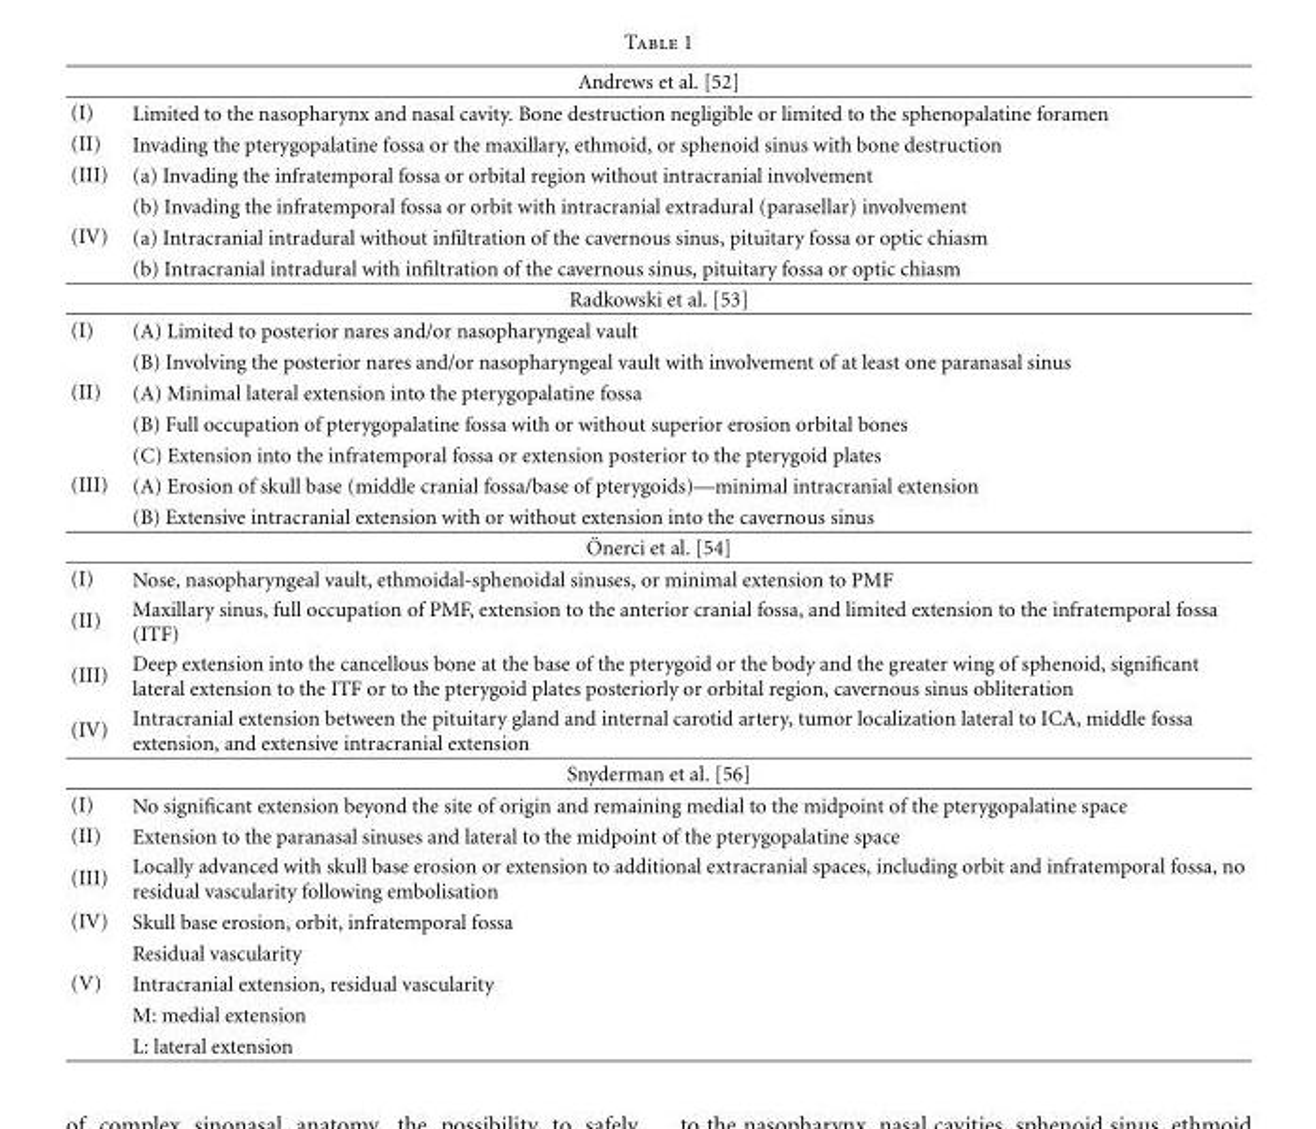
<table><tbody><tr><td colspan="2">Andrews et al. [52]</td></tr><tr><td>(I)</td><td>Limited to the nasopharynx and nasal cavity. Bone destruction negligible or limited to the sphenopalatine foramen</td></tr><tr><td>(II)</td><td>Invading the pterygopalatine fossa or the maxillary, ethmoid, or sphenoid sinus with bone destruction</td></tr><tr><td rowspan="2">(III)</td><td>(a) Invading the infratemporal fossa or orbital region without intracranial involvement</td></tr><tr><td>(b) Invading the infratemporal fossa or orbit with intracranial extradural (parasellar) involvement</td></tr><tr><td rowspan="2">(IV)</td><td>(a) Intracranial intradural without infiltration of the cavernous sinus, pituitary fossa or optic chiasm</td></tr><tr><td>(b) Intracranial intradural with infiltration of the cavernous sinus, pituitary fossa or optic chiasm</td></tr><tr><td colspan="2">Radkowski et al. [53]</td></tr><tr><td rowspan="2">(I)</td><td>(A) Limited to posterior nares and/or nasopharyngeal vault</td></tr><tr><td>(B) Involving the posterior nares and/or nasopharyngeal vault with involvement of at least one paranasal sinus</td></tr><tr><td rowspan="3">(II)</td><td>(A) Minimal lateral extension into the pterygopalatine fossa</td></tr><tr><td>(B) Full occupation of pterygopalatine fossa with or without superior erosion orbital bones</td></tr><tr><td>(C) Extension into the infratemporal fossa or extension posterior to the pterygoid plates</td></tr><tr><td rowspan="2">(III)</td><td>(A) Erosion of skull base (middle cranial fossa/base of pterygoids)—minimal intracranial extension</td></tr><tr><td>(B) Extensive intracranial extension with or without extension into the cavernous sinus</td></tr><tr><td colspan="2">¨Onerci et al. [54]</td></tr><tr><td>(I)</td><td>Nose, nasopharyngeal vault, ethmoidal-sphenoidal sinuses, or minimal extension to PMF</td></tr><tr><td>(II)</td><td>Maxillary sinus, full occupation of PMF, extension to the anterior cranial fossa, and limited extension to the infratemporal fossa (ITF)</td></tr><tr><td>(III)</td><td>Deep extension into the cancellous bone at the base of the pterygoid or the body and the greater wing of sphenoid, significant lateral extension to the ITF or to the pterygoid plates posteriorly or orbital region, cavernous sinus obliteration</td></tr><tr><td>(IV)</td><td>Intracranial extension between the pituitary gland and internal carotid artery, tumor localization lateral to ICA, middle fossa extension, and extensive intracranial extension</td></tr><tr><td colspan="2">Snyderman et al. [56]</td></tr><tr><td>(I)</td><td>No significant extension beyond the site of origin and remaining medial to the midpoint of the pterygopalatine space</td></tr><tr><td>(II)</td><td>Extension to the paranasal sinuses and lateral to the midpoint of the pterygopalatine space</td></tr><tr><td>(III)</td><td>Locally advanced with skull base erosion or extension to additional extracranial spaces, including orbit and infratemporal fossa, no residual vascularity following embolisation</td></tr><tr><td rowspan="2">(IV)</td><td>Skull base erosion, orbit, infratemporal fossa</td></tr><tr><td>Residual vascularity</td></tr><tr><td rowspan="3">(V)</td><td>Intracranial extension, residual vascularity</td></tr><tr><td>M: medial extension</td></tr><tr><td>L: lateral extension</td></tr></tbody></table>